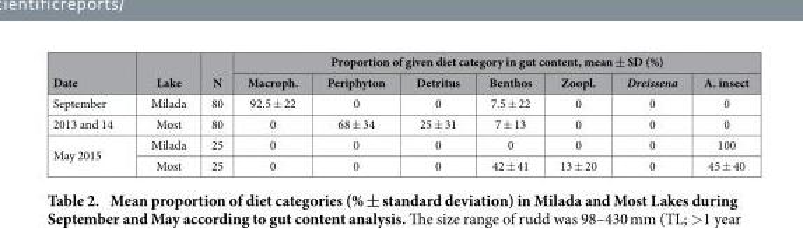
<table><thead><tr><td rowspan="2">Date</td><td rowspan="2">Lake</td><td rowspan="2">N</td><td colspan="7">Proportion of given diet category in gut content, mean ± SD (%)</td></tr><tr><td>Macroph.</td><td>Periphyton</td><td>Detritus</td><td>Benthos</td><td>Zoopl.</td><td>Dreissena</td><td>A. insect</td></tr></thead><tbody><tr><td>September</td><td>Milada</td><td>80</td><td>92.5 ± 22</td><td>0</td><td>0</td><td>7.5 ± 22</td><td>0</td><td>0</td><td>0</td></tr><tr><td>2013 and 14</td><td>Most</td><td>80</td><td>0</td><td>68 ± 34</td><td>25 ± 31</td><td>7 ± 13</td><td>0</td><td>0</td><td>0</td></tr><tr><td rowspan="2">May 2015</td><td>Milada</td><td>25</td><td>0</td><td>0</td><td>0</td><td>0</td><td>0</td><td>0</td><td>100</td></tr><tr><td>Most</td><td>25</td><td>0</td><td>0</td><td>0</td><td>42 ± 41</td><td>13 ± 20</td><td>0</td><td>45 ± 40</td></tr></tbody></table>